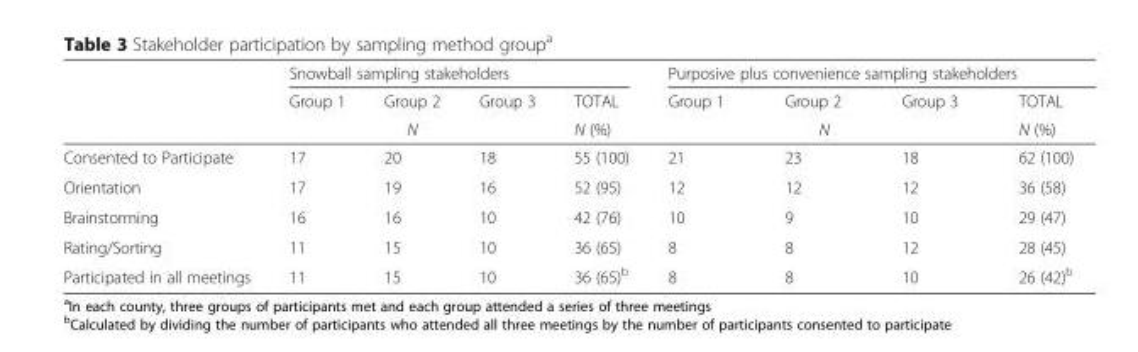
<table><thead><tr><td rowspan="3"></td><td colspan="4">Snowball sampling stakeholders</td><td colspan="4">Purposive plus convenience sampling stakeholders</td></tr><tr><td>Group 1</td><td>Group 2</td><td>Group 3</td><td rowspan="2">TOTAL N (%)</td><td>Group 1</td><td>Group 2</td><td>Group 3</td><td rowspan="2">TOTAL N (%)</td></tr><tr><td colspan="3">N</td><td colspan="3">N</td></tr></thead><tbody><tr><td>Consented to Participate</td><td>17</td><td>20</td><td>18</td><td>55 (100)</td><td>21</td><td>23</td><td>18</td><td>62 (100)</td></tr><tr><td>Orientation</td><td>17</td><td>19</td><td>16</td><td>52 (95)</td><td>12</td><td>12</td><td>12</td><td>36 (58)</td></tr><tr><td>Brainstorming</td><td>16</td><td>16</td><td>10</td><td>42 (76)</td><td>10</td><td>9</td><td>10</td><td>29 (47)</td></tr><tr><td>Rating/Sorting</td><td>11</td><td>15</td><td>10</td><td>36 (65)</td><td>8</td><td>8</td><td>12</td><td>28 (45)</td></tr><tr><td>Participated in all meetings</td><td>11</td><td>15</td><td>10</td><td>36 (65)<sup>b</sup></td><td>8</td><td>8</td><td>10</td><td>26 (42)<sup>b</sup></td></tr></tbody></table>